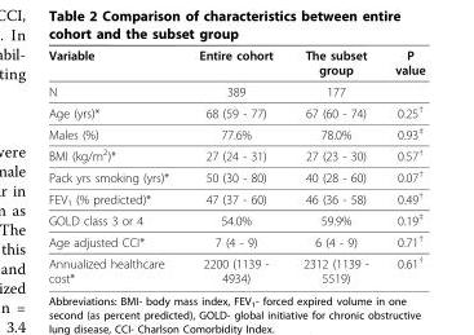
<table><thead><tr><td>Variable</td><td>Entire cohort</td><td>The subset group</td><td>P value</td></tr></thead><tbody><tr><td>N</td><td>389</td><td>177</td><td></td></tr><tr><td>Age (yrs)*</td><td>68 (59 - 77)</td><td>67 (60 - 74)</td><td>0.25<sup>†</sup></td></tr><tr><td>Males (%)</td><td>77.6%</td><td>78.0%</td><td>0.93<sup>‡</sup></td></tr><tr><td>BMI (kg/m<sup>2</sup>)*</td><td>27 (24 - 31)</td><td>27 (23 - 30)</td><td>0.57<sup>†</sup></td></tr><tr><td>Pack yrs smoking (yrs)*</td><td>50 (30 - 80)</td><td>40 (28 - 60)</td><td>0.07<sup>†</sup></td></tr><tr><td>FEV<sub>1</sub> (% predicted)*</td><td>47 (37 - 60)</td><td>46 (36 - 58)</td><td>0.49<sup>†</sup></td></tr><tr><td>GOLD class 3 or 4</td><td>54.0%</td><td>59.9%</td><td>0.19<sup>‡</sup></td></tr><tr><td>Age adjusted CCI*</td><td>7 (4 - 9)</td><td>6 (4 - 9)</td><td>0.71<sup>†</sup></td></tr><tr><td>Annualized healthcare cost*</td><td>2200 (1139 - 4934)</td><td>2312 (1139 - 5519)</td><td>0.61<sup>†</sup></td></tr></tbody></table>